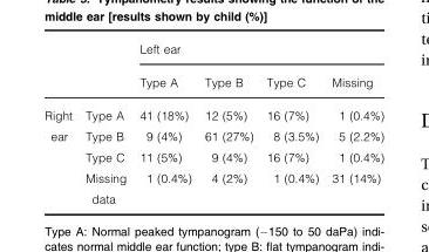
<table><thead><tr><td rowspan="2"></td><td rowspan="2"></td><td colspan="4">Left ear</td></tr><tr><td>Type A</td><td>Type B</td><td>Type C</td><td>Missing</td></tr></thead><tbody><tr><td rowspan="4">Right ear</td><td>Type A</td><td>41 (18%)</td><td>12 (5%)</td><td>16 (7%)</td><td>1 (0.4%)</td></tr><tr><td>Type B</td><td>9 (4%)</td><td>61 (27%)</td><td>8 (3.5%)</td><td>5 (2.2%)</td></tr><tr><td>Type C</td><td>11 (5%)</td><td>9 (4%)</td><td>16 (7%)</td><td>1 (0.4%)</td></tr><tr><td>Missing data</td><td>1 (0.4%)</td><td>4 (2%)</td><td>1 (0.4%)</td><td>31 (14%)</td></tr></tbody></table>